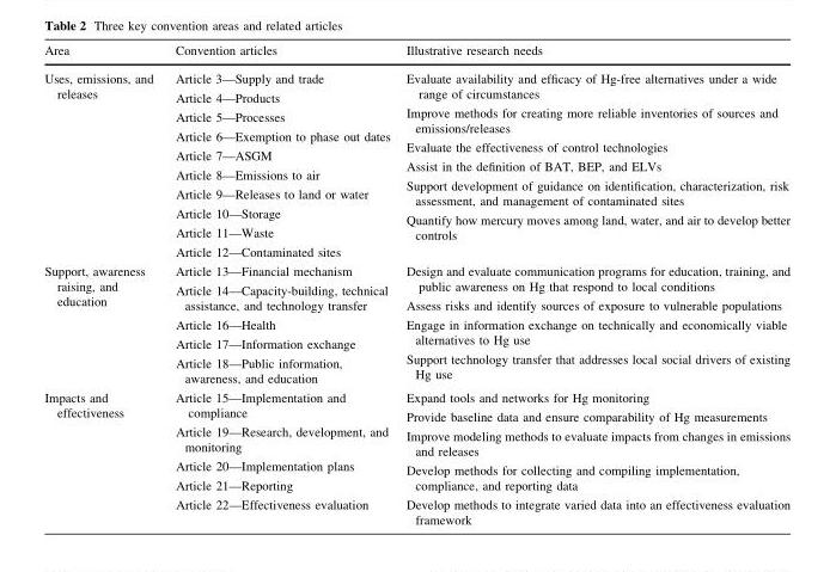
<table><thead><tr><td>Area</td><td>Convention articles</td><td>Illustrative research needs</td></tr></thead><tbody><tr><td>Uses, emissions, and releases</td><td>Article 3—Supply and trade Article 4—Products Article 5—Processes Article 6—Exemption to phase out dates Article 7—ASGM Article 8—Emissions to air Article 9—Releases to land or water Article 10—Storage Article 11—Waste Article 12—Contaminated sites</td><td>Evaluate availability and efficacy of Hg-free alternatives under a wide range of circumstances Improve methods for creating more reliable inventories of sources and emissions/releases Evaluate the effectiveness of control technologies Assist in the definition of BAT, BEP, and ELVs Support development of guidance on identification, characterization, risk assessment, and management of contaminated sites Quantify how mercury moves among land, water, and air to develop better controls</td></tr><tr><td>Support, awareness raising, and education</td><td>Article 13—Financial mechanism Article 14—Capacity-building, technical assistance, and technology transfer Article 16—Health Article 17—Information exchange Article 18—Public information, awareness, and education</td><td>Design and evaluate communication programs for education, training, and public awareness on Hg that respond to local conditions Assess risks and identify sources of exposure to vulnerable populations Engage in information exchange on technically and economically viable alternatives to Hg use Support technology transfer that addresses local social drivers of existing Hg use</td></tr><tr><td>Impacts and effectiveness</td><td>Article 15—Implementation and compliance Article 19—Research, development, and monitoring Article 20—Implementation plans Article 21—Reporting Article 22—Effectiveness evaluation</td><td>Expand tools and networks for Hg monitoring Provide baseline data and ensure comparability of Hg measurements Improve modeling methods to evaluate impacts from changes in emissions and releases Develop methods for collecting and compiling implementation, compliance, and reporting data Develop methods to integrate varied data into an effectiveness evaluation framework</td></tr></tbody></table>